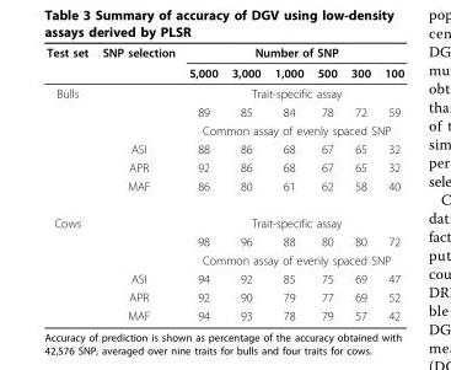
<table><thead><tr><td rowspan="2">Test set</td><td rowspan="2">SNP selection</td><td colspan="6">Number of SNP</td></tr><tr><td>5,000</td><td>3,000</td><td>1,000</td><td>500</td><td>300</td><td>100</td></tr></thead><tbody><tr><td rowspan="6">Bulls</td><td></td><td colspan="6">Trait-specific assay</td></tr><tr><td></td><td>89</td><td>85</td><td>84</td><td>78</td><td>72</td><td>59</td></tr><tr><td></td><td colspan="6">Common assay of evenly spaced SNP</td></tr><tr><td>ASI</td><td>88</td><td>86</td><td>68</td><td>67</td><td>65</td><td>32</td></tr><tr><td>APR</td><td>92</td><td>86</td><td>68</td><td>67</td><td>65</td><td>32</td></tr><tr><td>MAF</td><td>86</td><td>80</td><td>61</td><td>62</td><td>58</td><td>40</td></tr><tr><td rowspan="6">Cows</td><td></td><td colspan="6">Trait-specific assay</td></tr><tr><td></td><td>98</td><td>96</td><td>88</td><td>80</td><td>80</td><td>72</td></tr><tr><td></td><td colspan="6">Common assay of evenly spaced SNP</td></tr><tr><td>ASI</td><td>94</td><td>92</td><td>85</td><td>75</td><td>69</td><td>47</td></tr><tr><td>APR</td><td>92</td><td>90</td><td>79</td><td>77</td><td>69</td><td>52</td></tr><tr><td>MAF</td><td>94</td><td>93</td><td>78</td><td>79</td><td>57</td><td>42</td></tr></tbody></table>